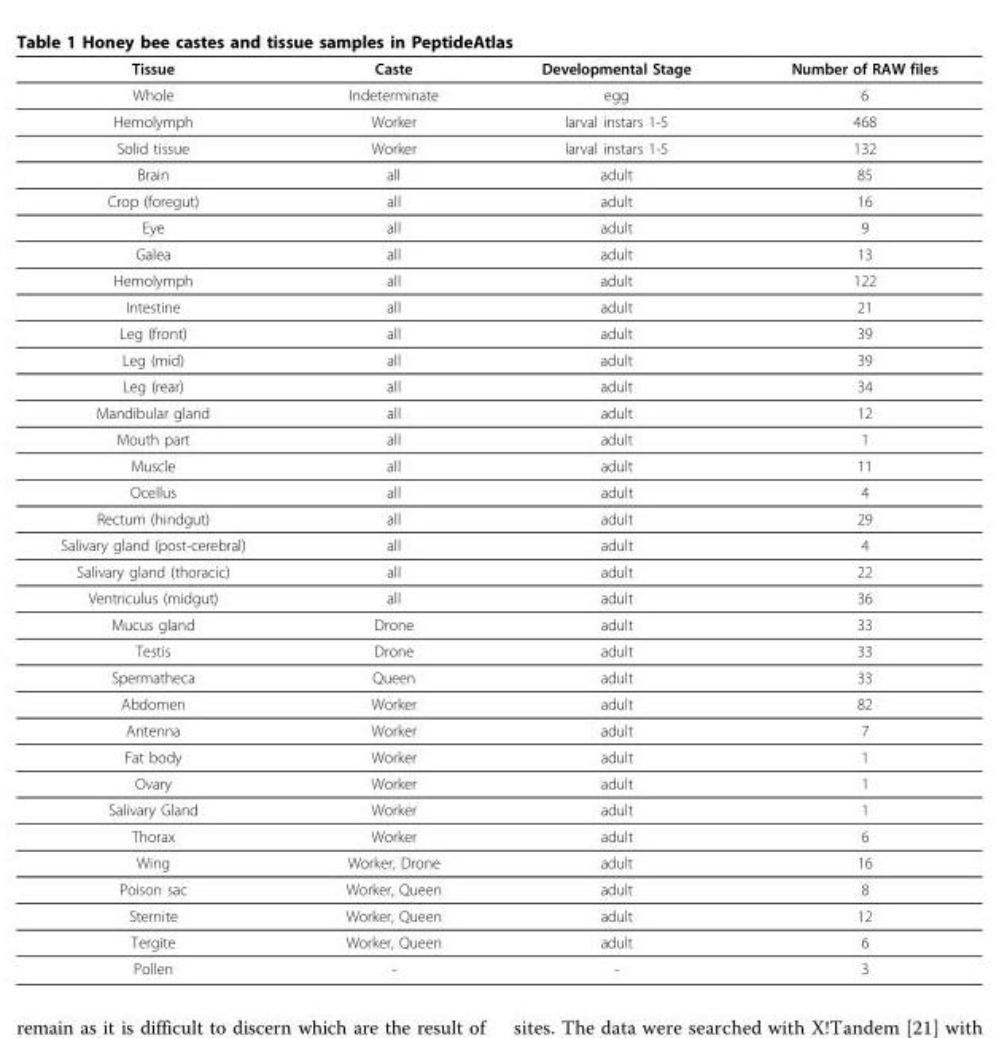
<table><thead><tr><td>Tissue</td><td>Caste</td><td>Developmental Stage</td><td>Number of RAW files</td></tr></thead><tbody><tr><td>Whole</td><td>Indeterminate</td><td>egg</td><td>6</td></tr><tr><td>Hemolymph</td><td>Worker</td><td>larval instars 1-5</td><td>468</td></tr><tr><td>Solid tissue</td><td>Worker</td><td>larval instars 1-5</td><td>132</td></tr><tr><td>Brain</td><td>all</td><td>adult</td><td>85</td></tr><tr><td>Crop (foregut)</td><td>all</td><td>adult</td><td>16</td></tr><tr><td>Eye</td><td>all</td><td>adult</td><td>9</td></tr><tr><td>Galea</td><td>all</td><td>adult</td><td>13</td></tr><tr><td>Hemolymph</td><td>all</td><td>adult</td><td>122</td></tr><tr><td>Intestine</td><td>all</td><td>adult</td><td>21</td></tr><tr><td>Leg (front)</td><td>all</td><td>adult</td><td>39</td></tr><tr><td>Leg (mid)</td><td>all</td><td>adult</td><td>39</td></tr><tr><td>Leg (rear)</td><td>all</td><td>adult</td><td>34</td></tr><tr><td>Mandibular gland</td><td>all</td><td>adult</td><td>12</td></tr><tr><td>Mouth part</td><td>all</td><td>adult</td><td>1</td></tr><tr><td>Muscle</td><td>all</td><td>adult</td><td>11</td></tr><tr><td>Ocellus</td><td>all</td><td>adult</td><td>4</td></tr><tr><td>Rectum (hindgut)</td><td>all</td><td>adult</td><td>29</td></tr><tr><td>Salivary gland (post-cerebral)</td><td>all</td><td>adult</td><td>4</td></tr><tr><td>Salivary gland (thoracic)</td><td>all</td><td>adult</td><td>22</td></tr><tr><td>Ventriculus (midgut)</td><td>all</td><td>adult</td><td>36</td></tr><tr><td>Mucus gland</td><td>Drone</td><td>adult</td><td>33</td></tr><tr><td>Testis</td><td>Drone</td><td>adult</td><td>33</td></tr><tr><td>Spermatheca</td><td>Queen</td><td>adult</td><td>33</td></tr><tr><td>Abdomen</td><td>Worker</td><td>adult</td><td>82</td></tr><tr><td>Antenna</td><td>Worker</td><td>adult</td><td>7</td></tr><tr><td>Fat body</td><td>Worker</td><td>adult</td><td>1</td></tr><tr><td>Ovary</td><td>Worker</td><td>adult</td><td>1</td></tr><tr><td>Salivary Gland</td><td>Worker</td><td>adult</td><td>1</td></tr><tr><td>Thorax</td><td>Worker</td><td>adult</td><td>6</td></tr><tr><td>Wing</td><td>Worker, Drone</td><td>adult</td><td>16</td></tr><tr><td>Poison sac</td><td>Worker, Queen</td><td>adult</td><td>8</td></tr><tr><td>Sternite</td><td>Worker, Queen</td><td>adult</td><td>12</td></tr><tr><td>Tergite</td><td>Worker, Queen</td><td>adult</td><td>6</td></tr><tr><td>Pollen</td><td>-</td><td>-</td><td>3</td></tr></tbody></table>